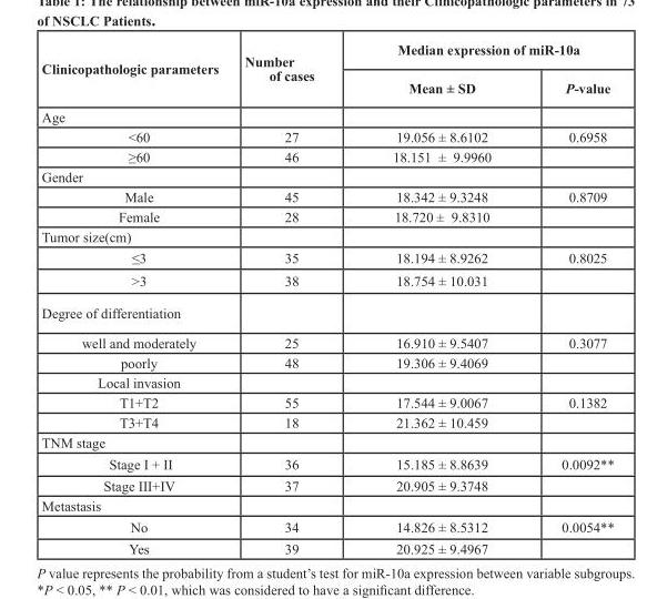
<table><thead><tr><td rowspan="2">Clinicopathologic parameters</td><td rowspan="2">Number of cases</td><td colspan="2">Median expression of miR-10a</td></tr><tr><td>Mean ± SD</td><td>P-value</td></tr></thead><tbody><tr><td colspan="4">Age</td></tr><tr><td>&lt;60</td><td>27</td><td>19.056 ± 8.6102</td><td>0.6958</td></tr><tr><td>≥60</td><td>46</td><td>18.151 ± 9.9960</td><td></td></tr><tr><td colspan="4">Gender</td></tr><tr><td>Male</td><td>45</td><td>18.342 ± 9.3248</td><td>0.8709</td></tr><tr><td>Female</td><td>28</td><td>18.720 ± 9.8310</td><td></td></tr><tr><td colspan="4">Tumor size(cm)</td></tr><tr><td>≤3</td><td>35</td><td>18.194 ± 8.9262</td><td>0.8025</td></tr><tr><td>&gt;3</td><td>38</td><td>18.754 ± 10.031</td><td></td></tr><tr><td colspan="4">Degree of differentiation</td></tr><tr><td>well and moderately</td><td>25</td><td>16.910 ± 9.5407</td><td>0.3077</td></tr><tr><td>poorly</td><td>48</td><td>19.306 ± 9.4069</td><td></td></tr><tr><td colspan="4">Local invasion</td></tr><tr><td>T1+T2</td><td>55</td><td>17.544 ± 9.0067</td><td>0.1382</td></tr><tr><td>T3+T4</td><td>18</td><td>21.362 ± 10.459</td><td></td></tr><tr><td colspan="4">TNM stage</td></tr><tr><td>Stage I + II</td><td>36</td><td>15.185 ± 8.8639</td><td>0.0092**</td></tr><tr><td>Stage III+IV</td><td>37</td><td>20.905 ± 9.3748</td><td></td></tr><tr><td colspan="4">Metastasis</td></tr><tr><td>No</td><td>34</td><td>14.826 ± 8.5312</td><td>0.0054**</td></tr><tr><td>Yes</td><td>39</td><td>20.925 ± 9.4967</td><td></td></tr></tbody></table>